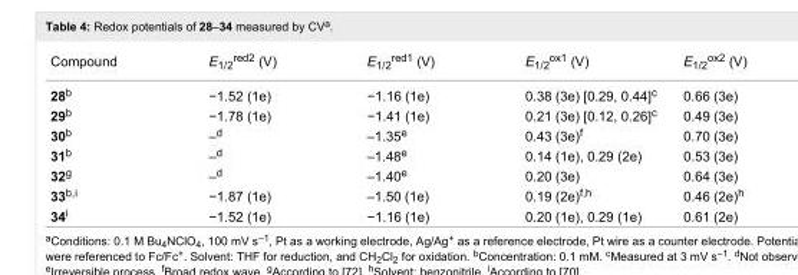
<table><tbody><tr><td>Compound</td><td>E<sub>1/2</sub><sup>red2</sup> (V)</td><td>E<sub>1/2</sub><sup>red1</sup> (V)</td><td>E<sub>1/2</sub><sup>ox1</sup> (V)</td><td>E<sub>1/2</sub><sup>ox2</sup> (V)</td></tr><tr><td>28<sup>b</sup></td><td>−1.52 (1e)</td><td>−1.16 (1e)</td><td>0.38 (3e) [0.29, 0.44]<sup>c</sup></td><td>0.66 (3e)</td></tr><tr><td>29<sup>b</sup></td><td>−1.78 (1e)</td><td>−1.41 (1e)</td><td>0.21 (3e) [0.12, 0.26]<sup>c</sup></td><td>0.49 (3e)</td></tr><tr><td>30<sup>b</sup></td><td>–<sup>d</sup></td><td>–1.35<sup>e</sup></td><td>0.43 (3e)<sup>f</sup></td><td>0.70 (3e)</td></tr><tr><td>31<sup>b</sup></td><td>–<sup>d</sup></td><td>–1.48<sup>e</sup></td><td>0.14 (1e), 0.29 (2e)</td><td>0.53 (3e)</td></tr><tr><td>32<sup>g</sup></td><td>–<sup>d</sup></td><td>–1.40<sup>e</sup></td><td>0.20 (3e)</td><td>0.64 (3e)</td></tr><tr><td>33<sup>b,i</sup></td><td>−1.87 (1e)</td><td>–1.50 (1e)</td><td>0.19 (2e)<sup>f,h</sup></td><td>0.46 (2e)<sup>h</sup></td></tr><tr><td>34<sup>i</sup></td><td>−1.52 (1e)</td><td>−1.16 (1e)</td><td>0.20 (1e), 0.29 (1e)</td><td>0.61 (2e)</td></tr></tbody></table>